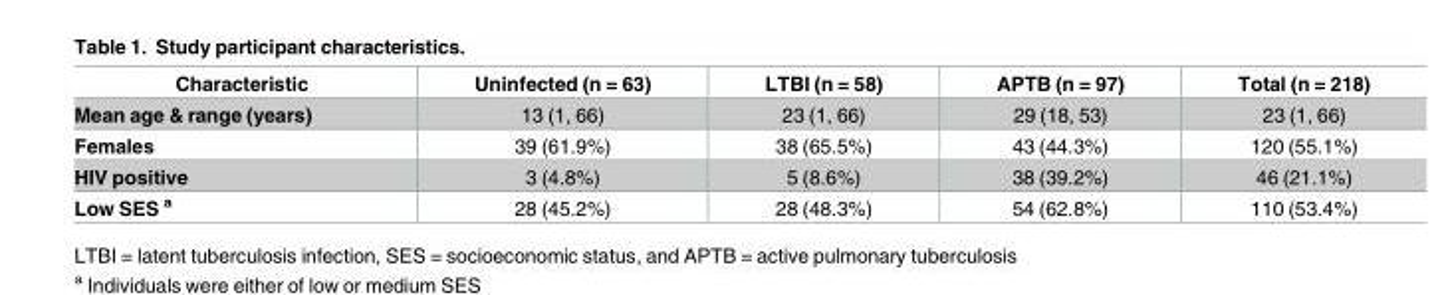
<table><thead><tr><td>Characteristic</td><td>Uninfected (n = 63)</td><td>LTBI (n = 58)</td><td>APTB (n = 97)</td><td>Total (n = 218)</td></tr></thead><tbody><tr><td>Mean age &amp; range (years)</td><td>13 (1, 66)</td><td>23 (1, 66)</td><td>29 (18, 53)</td><td>23 (1, 66)</td></tr><tr><td>Females</td><td>39 (61.9%)</td><td>38 (65.5%)</td><td>43 (44.3%)</td><td>120 (55.1%)</td></tr><tr><td>HIV positive</td><td>3 (4.8%)</td><td>5 (8.6%)</td><td>38 (39.2%)</td><td>46 (21.1%)</td></tr><tr><td>Low SES <sup>a</sup></td><td>28 (45.2%)</td><td>28 (48.3%)</td><td>54 (62.8%)</td><td>110 (53.4%)</td></tr></tbody></table>